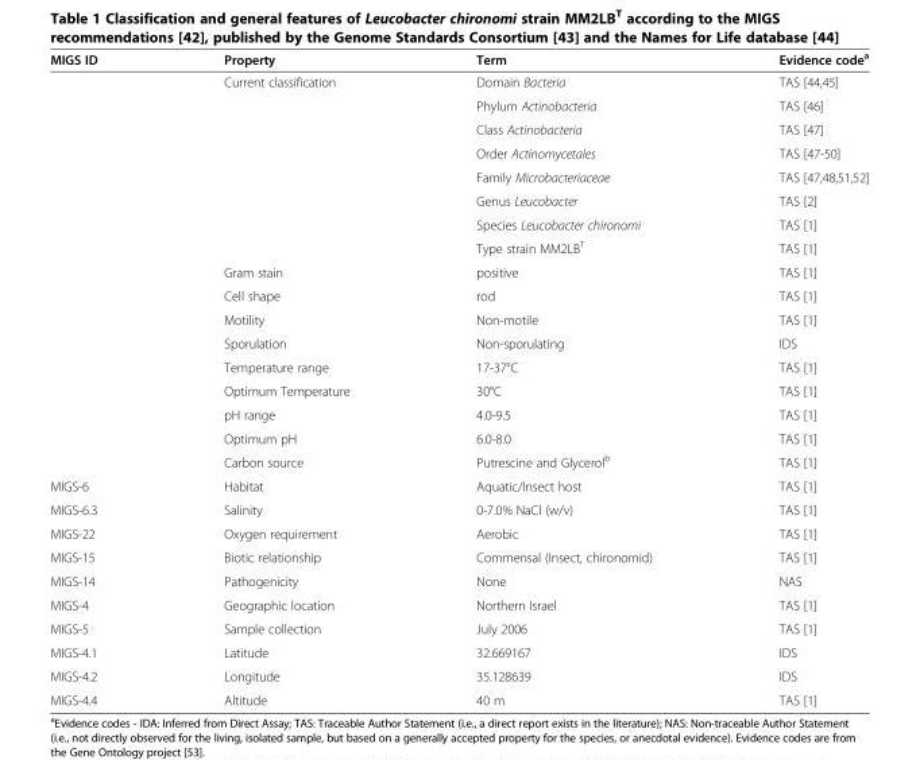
<table><thead><tr><td>MIGS ID</td><td>Property</td><td>Term</td><td>Evidence code<sup>a</sup></td></tr></thead><tbody><tr><td></td><td>Current classification</td><td>Domain Bacteria</td><td>TAS [44,45]</td></tr><tr><td></td><td></td><td>Phylum Actinobacteria</td><td>TAS [46]</td></tr><tr><td></td><td></td><td>Class Actinobacteria</td><td>TAS [47]</td></tr><tr><td></td><td></td><td>Order Actinomycetales</td><td>TAS [47-50]</td></tr><tr><td></td><td></td><td>Family Microbacteriaceae</td><td>TAS [47,48,51,52]</td></tr><tr><td></td><td></td><td>Genus Leucobacter</td><td>TAS [2]</td></tr><tr><td></td><td></td><td>Species Leucobacter chironomi</td><td>TAS [1]</td></tr><tr><td></td><td></td><td>Type strain MM2LB<sup>T</sup></td><td>TAS [1]</td></tr><tr><td></td><td>Gram stain</td><td>positive</td><td>TAS [1]</td></tr><tr><td></td><td>Cell shape</td><td>rod</td><td>TAS [1]</td></tr><tr><td></td><td>Motility</td><td>Non-motile</td><td>TAS [1]</td></tr><tr><td></td><td>Sporulation</td><td>Non-sporulating</td><td>IDS</td></tr><tr><td></td><td>Temperature range</td><td>17-37°C</td><td>TAS [1]</td></tr><tr><td></td><td>Optimum Temperature</td><td>30°C</td><td>TAS [1]</td></tr><tr><td></td><td>pH range</td><td>4.0-9.5</td><td>TAS [1]</td></tr><tr><td></td><td>Optimum pH</td><td>6.0-8.0</td><td>TAS [1]</td></tr><tr><td></td><td>Carbon source</td><td>Putrescine and Glycerol<sup>b</sup></td><td>TAS [1]</td></tr><tr><td>MIGS-6</td><td>Habitat</td><td>Aquatic/Insect host</td><td>TAS [1]</td></tr><tr><td>MIGS-6.3</td><td>Salinity</td><td>0-7.0% NaCl (w/v)</td><td>TAS [1]</td></tr><tr><td>MIGS-22</td><td>Oxygen requirement</td><td>Aerobic</td><td>TAS [1]</td></tr><tr><td>MIGS-15</td><td>Biotic relationship</td><td>Commensal (Insect, chironomid)</td><td>TAS [1]</td></tr><tr><td>MIGS-14</td><td>Pathogenicity</td><td>None</td><td>NAS</td></tr><tr><td>MIGS-4</td><td>Geographic location</td><td>Northern Israel</td><td>TAS [1]</td></tr><tr><td>MIGS-5</td><td>Sample collection</td><td>July 2006</td><td>TAS [1]</td></tr><tr><td>MIGS-4.1</td><td>Latitude</td><td>32.669167</td><td>IDS</td></tr><tr><td>MIGS-4.2</td><td>Longitude</td><td>35.128639</td><td>IDS</td></tr><tr><td>MIGS-4.4</td><td>Altitude</td><td>40 m</td><td>TAS [1]</td></tr></tbody></table>